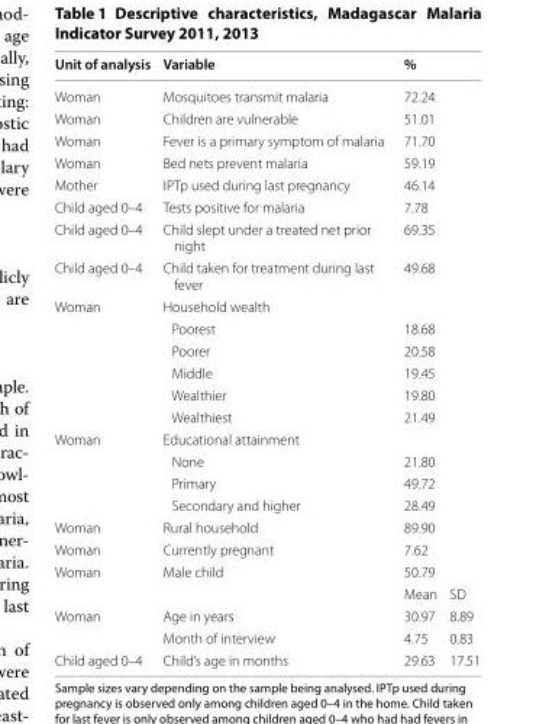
<table><thead><tr><td>Unit of analysis</td><td>Variable</td><td>%</td><td></td></tr></thead><tbody><tr><td>Woman</td><td>Mosquitoes transmit malaria</td><td>72.24</td><td></td></tr><tr><td>Woman</td><td>Children are vulnerable</td><td>51.01</td><td></td></tr><tr><td>Woman</td><td>Fever is a primary symptom of malaria</td><td>71.70</td><td></td></tr><tr><td>Woman</td><td>Bed nets prevent malaria</td><td>59.19</td><td></td></tr><tr><td>Mother</td><td>IPTp used during last pregnancy</td><td>46.14</td><td></td></tr><tr><td>Child aged 0–4</td><td>Tests positive for malaria</td><td>7.78</td><td></td></tr><tr><td>Child aged 0–4</td><td>Child slept under a treated net prior night</td><td>69.35</td><td></td></tr><tr><td>Child aged 0–4</td><td>Child taken for treatment during last fever</td><td>49.68</td><td></td></tr><tr><td rowspan="6">Woman</td><td colspan="3">Household wealth</td></tr><tr><td>Poorest</td><td>18.68</td><td></td></tr><tr><td>Poorer</td><td>20.58</td><td></td></tr><tr><td>Middle</td><td>19.45</td><td></td></tr><tr><td>Wealthier</td><td>19.80</td><td></td></tr><tr><td>Wealthiest</td><td>21.49</td><td></td></tr><tr><td rowspan="4">Woman</td><td colspan="3">Educational attainment</td></tr><tr><td>None</td><td>21.80</td><td></td></tr><tr><td>Primary</td><td>49.72</td><td></td></tr><tr><td>Secondary and higher</td><td>28.49</td><td></td></tr><tr><td>Woman</td><td>Rural household</td><td>89.90</td><td></td></tr><tr><td>Woman</td><td>Currently pregnant</td><td>7.62</td><td></td></tr><tr><td rowspan="2">Woman</td><td>Male child</td><td>50.79</td><td></td></tr><tr><td></td><td>Mean</td><td>SD</td></tr><tr><td rowspan="2">Woman</td><td>Age in years</td><td>30.97</td><td>8.89</td></tr><tr><td>Month of interview</td><td>4.75</td><td>0.83</td></tr><tr><td>Child aged 0–4</td><td>Child’s age in months</td><td>29.63</td><td>17.51</td></tr></tbody></table>